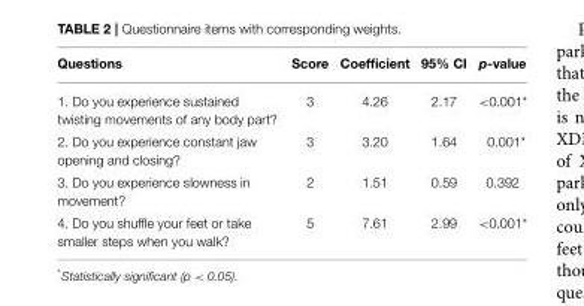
<table><thead><tr><td>Questions</td><td>Score</td><td>Coefficient</td><td>95% CI</td><td>p-value</td></tr></thead><tbody><tr><td>1. Do you experience sustained twisting movements of any body part?</td><td>3</td><td>4.26</td><td>2.17</td><td>&lt;0.001*</td></tr><tr><td>2. Do you experience constant jaw opening and closing?</td><td>3</td><td>3.20</td><td>1.64</td><td>0.001*</td></tr><tr><td>3. Do you experience slowness in movement?</td><td>2</td><td>1.51</td><td>0.59</td><td>0.392</td></tr><tr><td>4. Do you shuffle your feet or take smaller steps when you walk?</td><td>5</td><td>7.61</td><td>2.99</td><td>&lt;0.001*</td></tr></tbody></table>